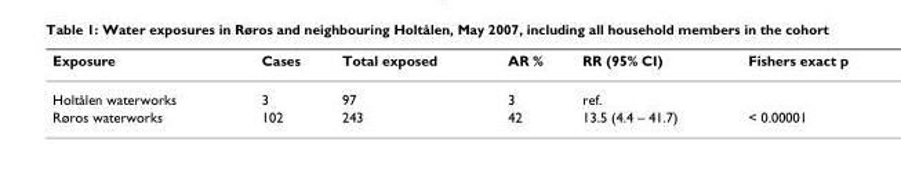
<table><thead><tr><td>Exposure</td><td>Cases</td><td>Total exposed</td><td>AR %</td><td>RR (95% CI)</td><td>Fishers exact p</td></tr></thead><tbody><tr><td>Holtålen waterworks</td><td>3</td><td>97</td><td>3</td><td>ref.</td><td></td></tr><tr><td>Røros waterworks</td><td>102</td><td>243</td><td>42</td><td>13.5 (4.4 – 41.7)</td><td>&lt; 0.00001</td></tr></tbody></table>